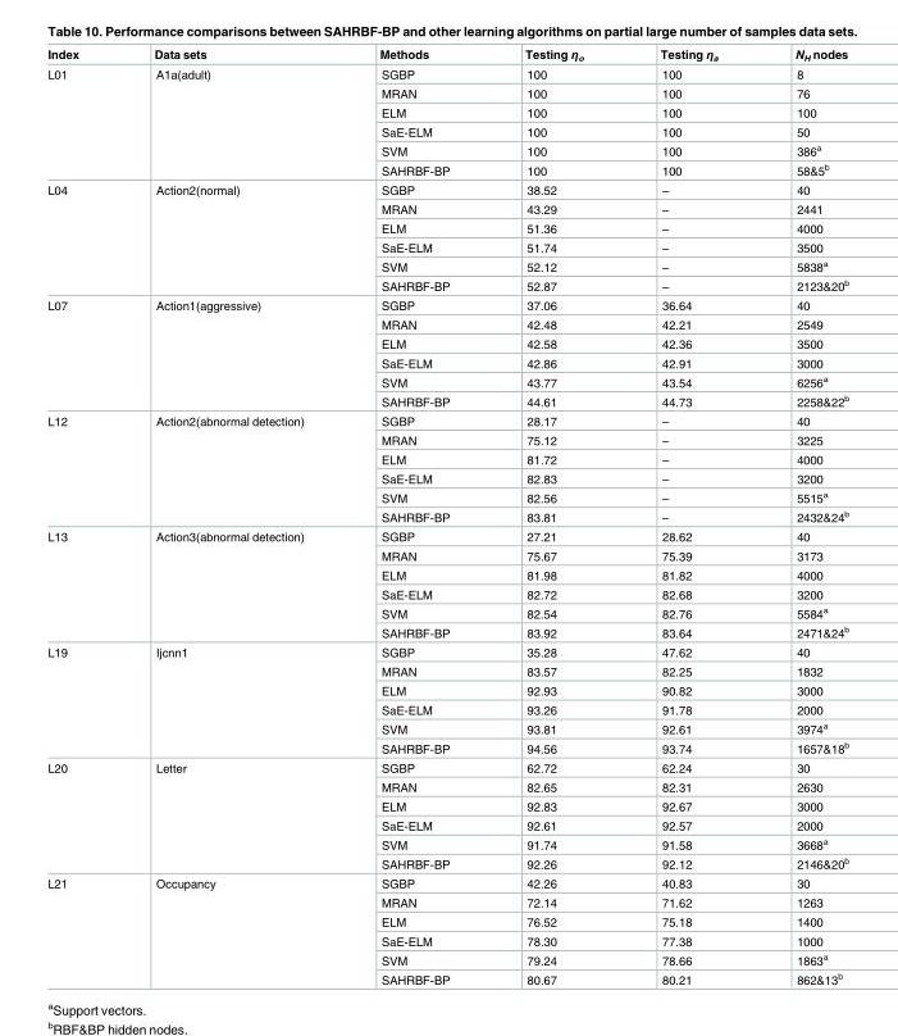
<table><thead><tr><td>Index</td><td>Data sets</td><td>Methods</td><td>Testing η<sub>o</sub></td><td>Testing η<sub>a</sub></td><td>N<sub>H</sub> nodes</td></tr></thead><tbody><tr><td rowspan="6">L01</td><td rowspan="6">A1a(adult)</td><td>SGBP</td><td>100</td><td>100</td><td>8</td></tr><tr><td>MRAN</td><td>100</td><td>100</td><td>76</td></tr><tr><td>ELM</td><td>100</td><td>100</td><td>100</td></tr><tr><td>SaE-ELM</td><td>100</td><td>100</td><td>50</td></tr><tr><td>SVM</td><td>100</td><td>100</td><td>386<sup>a</sup></td></tr><tr><td>SAHRBF-BP</td><td>100</td><td>100</td><td>58&amp;5<sup>b</sup></td></tr><tr><td rowspan="6">L04</td><td rowspan="6">Action2(normal)</td><td>SGBP</td><td>38.52</td><td>–</td><td>40</td></tr><tr><td>MRAN</td><td>43.29</td><td>–</td><td>2441</td></tr><tr><td>ELM</td><td>51.36</td><td>–</td><td>4000</td></tr><tr><td>SaE-ELM</td><td>51.74</td><td>–</td><td>3500</td></tr><tr><td>SVM</td><td>52.12</td><td>–</td><td>5838<sup>a</sup></td></tr><tr><td>SAHRBF-BP</td><td>52.87</td><td>–</td><td>2123&amp;20<sup>b</sup></td></tr><tr><td rowspan="6">L07</td><td rowspan="6">Action1(aggressive)</td><td>SGBP</td><td>37.06</td><td>36.64</td><td>40</td></tr><tr><td>MRAN</td><td>42.48</td><td>42.21</td><td>2549</td></tr><tr><td>ELM</td><td>42.58</td><td>42.36</td><td>3500</td></tr><tr><td>SaE-ELM</td><td>42.86</td><td>42.91</td><td>3000</td></tr><tr><td>SVM</td><td>43.77</td><td>43.54</td><td>6256<sup>a</sup></td></tr><tr><td>SAHRBF-BP</td><td>44.61</td><td>44.73</td><td>2258&amp;22<sup>b</sup></td></tr><tr><td rowspan="6">L12</td><td rowspan="6">Action2(abnormal detection)</td><td>SGBP</td><td>28.17</td><td>–</td><td>40</td></tr><tr><td>MRAN</td><td>75.12</td><td>–</td><td>3225</td></tr><tr><td>ELM</td><td>81.72</td><td>–</td><td>4000</td></tr><tr><td>SaE-ELM</td><td>82.83</td><td>–</td><td>3200</td></tr><tr><td>SVM</td><td>82.56</td><td>–</td><td>5515<sup>a</sup></td></tr><tr><td>SAHRBF-BP</td><td>83.81</td><td>–</td><td>2432&amp;24<sup>b</sup></td></tr><tr><td rowspan="6">L13</td><td rowspan="6">Action3(abnormal detection)</td><td>SGBP</td><td>27.21</td><td>28.62</td><td>40</td></tr><tr><td>MRAN</td><td>75.67</td><td>75.39</td><td>3173</td></tr><tr><td>ELM</td><td>81.98</td><td>81.82</td><td>4000</td></tr><tr><td>SaE-ELM</td><td>82.72</td><td>82.68</td><td>3200</td></tr><tr><td>SVM</td><td>82.54</td><td>82.76</td><td>5584<sup>a</sup></td></tr><tr><td>SAHRBF-BP</td><td>83.92</td><td>83.64</td><td>2471&amp;24<sup>b</sup></td></tr><tr><td rowspan="6">L19</td><td rowspan="6">Ijcnn1</td><td>SGBP</td><td>35.28</td><td>47.62</td><td>40</td></tr><tr><td>MRAN</td><td>83.57</td><td>82.25</td><td>1832</td></tr><tr><td>ELM</td><td>92.93</td><td>90.82</td><td>3000</td></tr><tr><td>SaE-ELM</td><td>93.26</td><td>91.78</td><td>2000</td></tr><tr><td>SVM</td><td>93.81</td><td>92.61</td><td>3974<sup>a</sup></td></tr><tr><td>SAHRBF-BP</td><td>94.56</td><td>93.74</td><td>1657&amp;18<sup>b</sup></td></tr><tr><td rowspan="6">L20</td><td rowspan="6">Letter</td><td>SGBP</td><td>62.72</td><td>62.24</td><td>30</td></tr><tr><td>MRAN</td><td>82.65</td><td>82.31</td><td>2630</td></tr><tr><td>ELM</td><td>92.83</td><td>92.67</td><td>3000</td></tr><tr><td>SaE-ELM</td><td>92.61</td><td>92.57</td><td>2000</td></tr><tr><td>SVM</td><td>91.74</td><td>91.58</td><td>3668<sup>a</sup></td></tr><tr><td>SAHRBF-BP</td><td>92.26</td><td>92.12</td><td>2146&amp;20<sup>b</sup></td></tr><tr><td rowspan="6">L21</td><td rowspan="6">Occupancy</td><td>SGBP</td><td>42.26</td><td>40.83</td><td>30</td></tr><tr><td>MRAN</td><td>72.14</td><td>71.62</td><td>1263</td></tr><tr><td>ELM</td><td>76.52</td><td>75.18</td><td>1400</td></tr><tr><td>SaE-ELM</td><td>78.30</td><td>77.38</td><td>1000</td></tr><tr><td>SVM</td><td>79.24</td><td>78.66</td><td>1863<sup>a</sup></td></tr><tr><td>SAHRBF-BP</td><td>80.67</td><td>80.21</td><td>862&amp;13<sup>b</sup></td></tr></tbody></table>